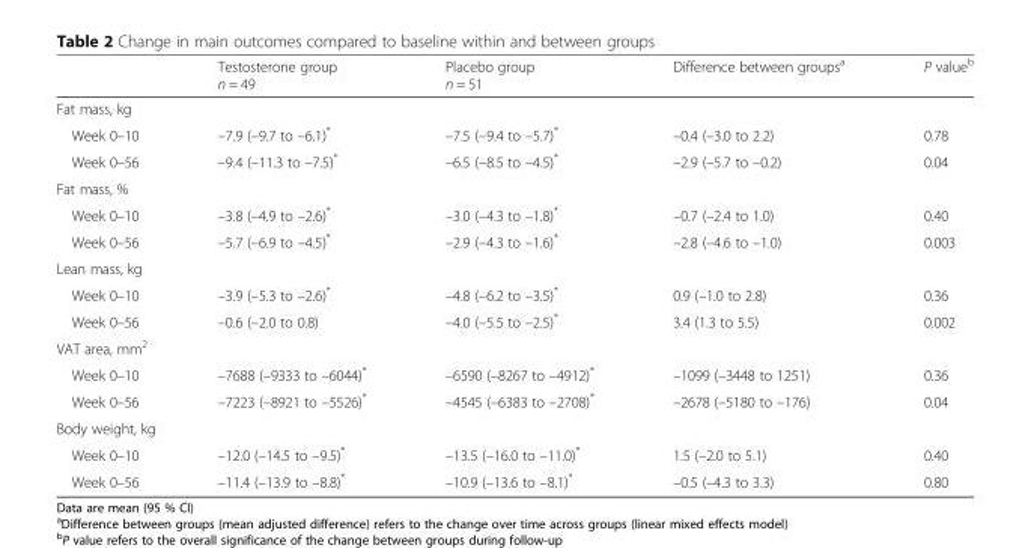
<table><thead><tr><td></td><td>Testosterone group n = 49</td><td>Placebo group n = 51</td><td>Difference between groups<sup>a</sup></td><td>P value<sup>b</sup></td></tr></thead><tbody><tr><td colspan="5">Fat mass, kg</td></tr><tr><td>Week 0–10</td><td>–7.9 (–9.7 to –6.1)*</td><td>–7.5 (–9.4 to –5.7)*</td><td>–0.4 (–3.0 to 2.2)</td><td>0.78</td></tr><tr><td>Week 0–56</td><td>–9.4 (–11.3 to –7.5)*</td><td>–6.5 (–8.5 to –4.5)*</td><td>–2.9 (–5.7 to –0.2)</td><td>0.04</td></tr><tr><td colspan="5">Fat mass, %</td></tr><tr><td>Week 0–10</td><td>–3.8 (–4.9 to –2.6)*</td><td>–3.0 (–4.3 to –1.8)*</td><td>–0.7 (–2.4 to 1.0)</td><td>0.40</td></tr><tr><td>Week 0–56</td><td>–5.7 (–6.9 to –4.5)*</td><td>–2.9 (–4.3 to –1.6)*</td><td>–2.8 (–4.6 to –1.0)</td><td>0.003</td></tr><tr><td colspan="5">Lean mass, kg</td></tr><tr><td>Week 0–10</td><td>–3.9 (–5.3 to –2.6)*</td><td>–4.8 (–6.2 to –3.5)*</td><td>0.9 (–1.0 to 2.8)</td><td>0.36</td></tr><tr><td>Week 0–56</td><td>–0.6 (–2.0 to 0.8)</td><td>–4.0 (–5.5 to –2.5)*</td><td>3.4 (1.3 to 5.5)</td><td>0.002</td></tr><tr><td colspan="5">VAT area, mm<sup>2</sup></td></tr><tr><td>Week 0–10</td><td>–7688 (–9333 to –6044)*</td><td>–6590 (–8267 to –4912)*</td><td>–1099 (–3448 to 1251)</td><td>0.36</td></tr><tr><td>Week 0–56</td><td>–7223 (–8921 to –5526)*</td><td>–4545 (–6383 to –2708)*</td><td>–2678 (–5180 to –176)</td><td>0.04</td></tr><tr><td colspan="5">Body weight, kg</td></tr><tr><td>Week 0–10</td><td>–12.0 (–14.5 to –9.5)*</td><td>–13.5 (–16.0 to –11.0)*</td><td>1.5 (–2.0 to 5.1)</td><td>0.40</td></tr><tr><td>Week 0–56</td><td>–11.4 (–13.9 to –8.8)*</td><td>–10.9 (–13.6 to –8.1)*</td><td>–0.5 (–4.3 to 3.3)</td><td>0.80</td></tr></tbody></table>